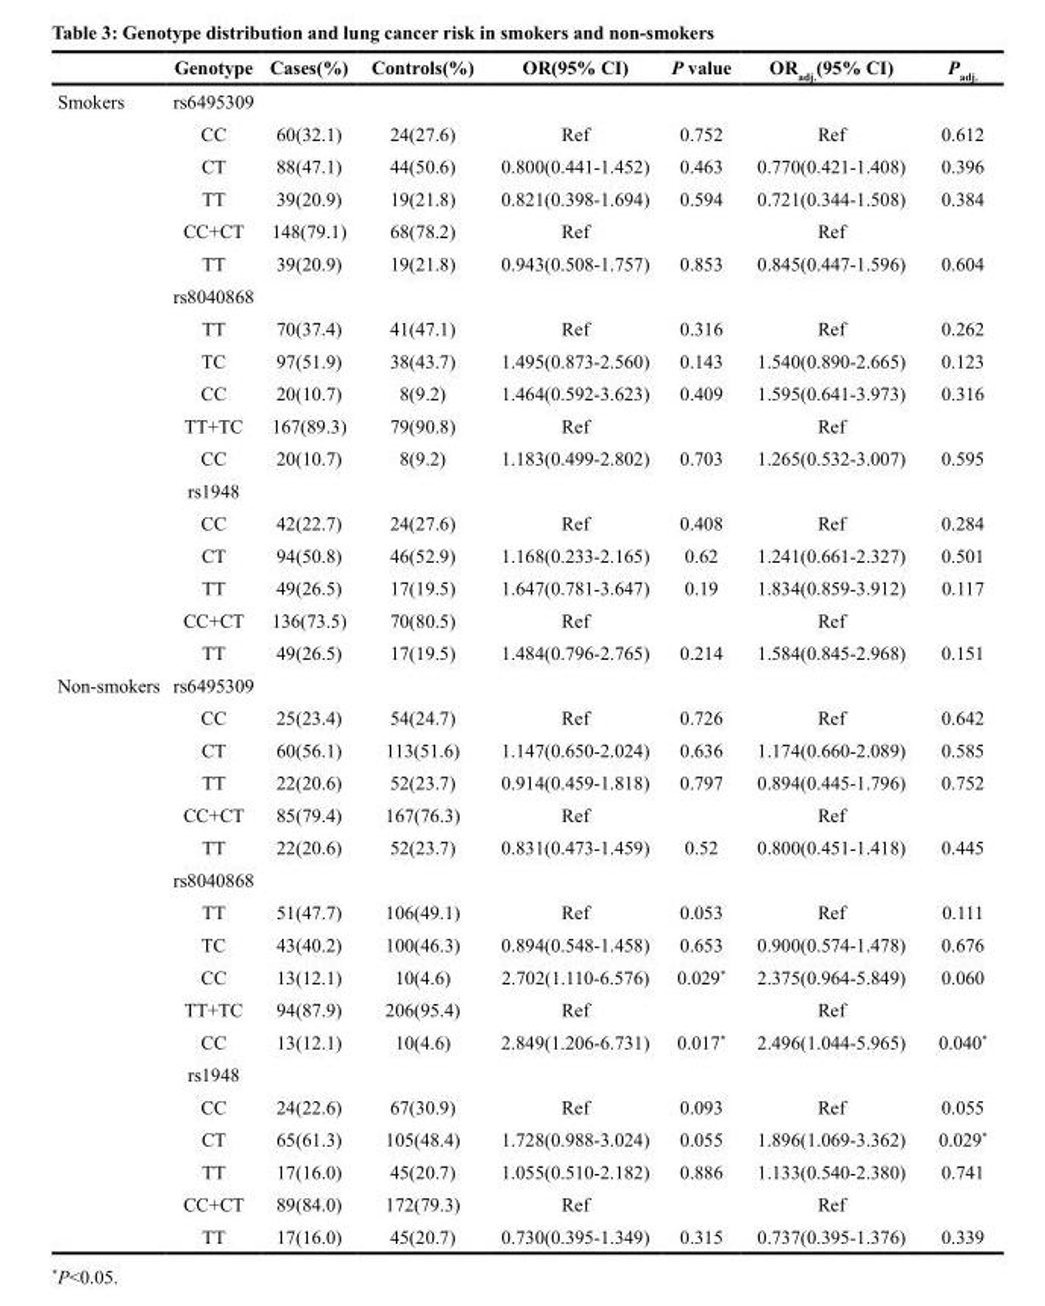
<table><thead><tr><td></td><td>Genotype</td><td>Cases(%)</td><td>Controls(%)</td><td>OR(95% CI)</td><td>P value</td><td>OR<sub>adj.</sub>(95% CI)</td><td>P<sub>adj.</sub></td></tr></thead><tbody><tr><td rowspan="18">Smokers</td><td>rs6495309</td><td></td><td></td><td></td><td></td><td></td><td></td></tr><tr><td>CC</td><td>60(32.1)</td><td>24(27.6)</td><td>Ref</td><td>0.752</td><td>Ref</td><td>0.612</td></tr><tr><td>CT</td><td>88(47.1)</td><td>44(50.6)</td><td>0.800(0.441-1.452)</td><td>0.463</td><td>0.770(0.421-1.408)</td><td>0.396</td></tr><tr><td>TT</td><td>39(20.9)</td><td>19(21.8)</td><td>0.821(0.398-1.694)</td><td>0.594</td><td>0.721(0.344-1.508)</td><td>0.384</td></tr><tr><td>CC+CT</td><td>148(79.1)</td><td>68(78.2)</td><td>Ref</td><td></td><td>Ref</td><td></td></tr><tr><td>TT</td><td>39(20.9)</td><td>19(21.8)</td><td>0.943(0.508-1.757)</td><td>0.853</td><td>0.845(0.447-1.596)</td><td>0.604</td></tr><tr><td>rs8040868</td><td></td><td></td><td></td><td></td><td></td><td></td></tr><tr><td>TT</td><td>70(37.4)</td><td>41(47.1)</td><td>Ref</td><td>0.316</td><td>Ref</td><td>0.262</td></tr><tr><td>TC</td><td>97(51.9)</td><td>38(43.7)</td><td>1.495(0.873-2.560)</td><td>0.143</td><td>1.540(0.890-2.665)</td><td>0.123</td></tr><tr><td>CC</td><td>20(10.7)</td><td>8(9.2)</td><td>1.464(0.592-3.623)</td><td>0.409</td><td>1.595(0.641-3.973)</td><td>0.316</td></tr><tr><td>TT+TC</td><td>167(89.3)</td><td>79(90.8)</td><td>Ref</td><td></td><td>Ref</td><td></td></tr><tr><td>CC</td><td>20(10.7)</td><td>8(9.2)</td><td>1.183(0.499-2.802)</td><td>0.703</td><td>1.265(0.532-3.007)</td><td>0.595</td></tr><tr><td>rs1948</td><td></td><td></td><td></td><td></td><td></td><td></td></tr><tr><td>CC</td><td>42(22.7)</td><td>24(27.6)</td><td>Ref</td><td>0.408</td><td>Ref</td><td>0.284</td></tr><tr><td>CT</td><td>94(50.8)</td><td>46(52.9)</td><td>1.168(0.233-2.165)</td><td>0.62</td><td>1.241(0.661-2.327)</td><td>0.501</td></tr><tr><td>TT</td><td>49(26.5)</td><td>17(19.5)</td><td>1.647(0.781-3.647)</td><td>0.19</td><td>1.834(0.859-3.912)</td><td>0.117</td></tr><tr><td>CC+CT</td><td>136(73.5)</td><td>70(80.5)</td><td>Ref</td><td></td><td>Ref</td><td></td></tr><tr><td>TT</td><td>49(26.5)</td><td>17(19.5)</td><td>1.484(0.796-2.765)</td><td>0.214</td><td>1.584(0.845-2.968)</td><td>0.151</td></tr><tr><td rowspan="18">Non-smokers</td><td>rs6495309</td><td></td><td></td><td></td><td></td><td></td><td></td></tr><tr><td>CC</td><td>25(23.4)</td><td>54(24.7)</td><td>Ref</td><td>0.726</td><td>Ref</td><td>0.642</td></tr><tr><td>CT</td><td>60(56.1)</td><td>113(51.6)</td><td>1.147(0.650-2.024)</td><td>0.636</td><td>1.174(0.660-2.089)</td><td>0.585</td></tr><tr><td>TT</td><td>22(20.6)</td><td>52(23.7)</td><td>0.914(0.459-1.818)</td><td>0.797</td><td>0.894(0.445-1.796)</td><td>0.752</td></tr><tr><td>CC+CT</td><td>85(79.4)</td><td>167(76.3)</td><td>Ref</td><td></td><td>Ref</td><td></td></tr><tr><td>TT</td><td>22(20.6)</td><td>52(23.7)</td><td>0.831(0.473-1.459)</td><td>0.52</td><td>0.800(0.451-1.418)</td><td>0.445</td></tr><tr><td>rs8040868</td><td></td><td></td><td></td><td></td><td></td><td></td></tr><tr><td>TT</td><td>51(47.7)</td><td>106(49.1)</td><td>Ref</td><td>0.053</td><td>Ref</td><td>0.111</td></tr><tr><td>TC</td><td>43(40.2)</td><td>100(46.3)</td><td>0.894(0.548-1.458)</td><td>0.653</td><td>0.900(0.574-1.478)</td><td>0.676</td></tr><tr><td>CC</td><td>13(12.1)</td><td>10(4.6)</td><td>2.702(1.110-6.576)</td><td>0.029*</td><td>2.375(0.964-5.849)</td><td>0.060</td></tr><tr><td>TT+TC</td><td>94(87.9)</td><td>206(95.4)</td><td>Ref</td><td></td><td>Ref</td><td></td></tr><tr><td>CC</td><td>13(12.1)</td><td>10(4.6)</td><td>2.849(1.206-6.731)</td><td>0.017*</td><td>2.496(1.044-5.965)</td><td>0.040*</td></tr><tr><td>rs1948</td><td></td><td></td><td></td><td></td><td></td><td></td></tr><tr><td>CC</td><td>24(22.6)</td><td>67(30.9)</td><td>Ref</td><td>0.093</td><td>Ref</td><td>0.055</td></tr><tr><td>CT</td><td>65(61.3)</td><td>105(48.4)</td><td>1.728(0.988-3.024)</td><td>0.055</td><td>1.896(1.069-3.362)</td><td>0.029*</td></tr><tr><td>TT</td><td>17(16.0)</td><td>45(20.7)</td><td>1.055(0.510-2.182)</td><td>0.886</td><td>1.133(0.540-2.380)</td><td>0.741</td></tr><tr><td>CC+CT</td><td>89(84.0)</td><td>172(79.3)</td><td>Ref</td><td></td><td>Ref</td><td></td></tr><tr><td>TT</td><td>17(16.0)</td><td>45(20.7)</td><td>0.730(0.395-1.349)</td><td>0.315</td><td>0.737(0.395-1.376)</td><td>0.339</td></tr></tbody></table>